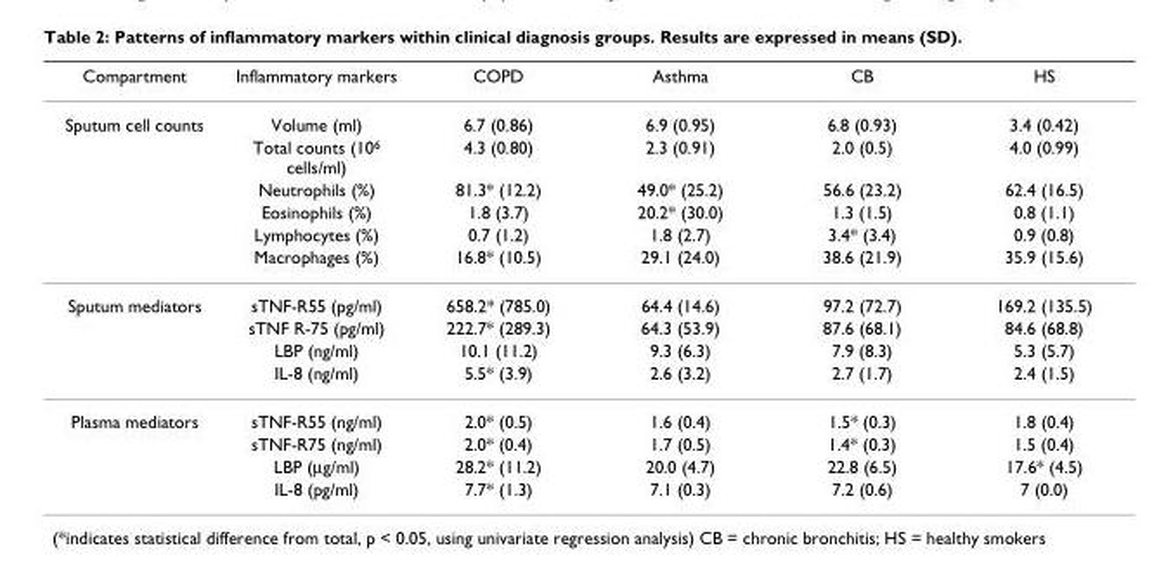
<table><thead><tr><td>Compartment</td><td>Inflammatory markers</td><td>COPD</td><td>Asthma</td><td>CB</td><td>HS</td></tr></thead><tbody><tr><td rowspan="6">Sputum cell counts</td><td>Volume (ml)</td><td>6.7 (0.86)</td><td>6.9 (0.95)</td><td>6.8 (0.93)</td><td>3.4 (0.42)</td></tr><tr><td>Total counts (106 cells/ml)</td><td>4.3 (0.80)</td><td>2.3 (0.91)</td><td>2.0 (0.5)</td><td>4.0 (0.99)</td></tr><tr><td>Neutrophils (%)</td><td>81.3* (12.2)</td><td>49.0* (25.2)</td><td>56.6 (23.2)</td><td>62.4 (16.5)</td></tr><tr><td>Eosinophils (%)</td><td>1.8 (3.7)</td><td>20.2* (30.0)</td><td>1.3 (1.5)</td><td>0.8 (1.1)</td></tr><tr><td>Lymphocytes (%)</td><td>0.7 (1.2)</td><td>1.8 (2.7)</td><td>3.4* (3.4)</td><td>0.9 (0.8)</td></tr><tr><td>Macrophages (%)</td><td>16.8* (10.5)</td><td>29.1 (24.0)</td><td>38.6 (21.9)</td><td>35.9 (15.6)</td></tr><tr><td rowspan="4">Sputum mediators</td><td>sTNF-R55 (pg/ml)</td><td>658.2* (785.0)</td><td>64.4 (14.6)</td><td>97.2 (72.7)</td><td>169.2 (135.5)</td></tr><tr><td>sTNF R-75 (pg/ml)</td><td>222.7* (289.3)</td><td>64.3 (53.9)</td><td>87.6 (68.1)</td><td>84.6 (68.8)</td></tr><tr><td>LBP (ng/ml)</td><td>10.1 (11.2)</td><td>9.3 (6.3)</td><td>7.9 (8.3)</td><td>5.3 (5.7)</td></tr><tr><td>IL-8 (ng/ml)</td><td>5.5* (3.9)</td><td>2.6 (3.2)</td><td>2.7 (1.7)</td><td>2.4 (1.5)</td></tr><tr><td rowspan="4">Plasma mediators</td><td>sTNF-R55 (ng/ml)</td><td>2.0* (0.5)</td><td>1.6 (0.4)</td><td>1.5* (0.3)</td><td>1.8 (0.4)</td></tr><tr><td>sTNF-R75 (ng/ml)</td><td>2.0* (0.4)</td><td>1.7 (0.5)</td><td>1.4* (0.3)</td><td>1.5 (0.4)</td></tr><tr><td>LBP (μg/ml)</td><td>28.2* (11.2)</td><td>20.0 (4.7)</td><td>22.8 (6.5)</td><td>17.6* (4.5)</td></tr><tr><td>IL-8 (pg/ml)</td><td>7.7* (1.3)</td><td>7.1 (0.3)</td><td>7.2 (0.6)</td><td>7 (0.0)</td></tr></tbody></table>